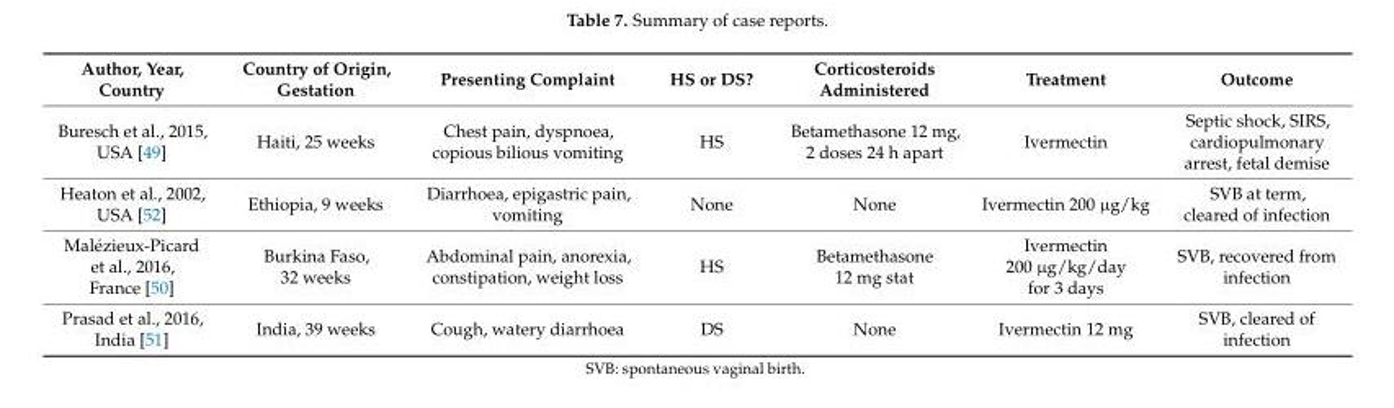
<table><thead><tr><td>Author, Year, Country</td><td>Country of Origin, Gestation</td><td>Presenting Complaint</td><td>HS or DS?</td><td>Corticosteroids Administered</td><td>Treatment</td><td>Outcome</td></tr></thead><tbody><tr><td>Buresch et al., 2015, USA [49]</td><td>Haiti, 25 weeks</td><td>Chest pain, dyspnoea, copious bilious vomiting</td><td>HS</td><td>Betamethasone 12 mg, 2 doses 24 h apart</td><td>Ivermectin</td><td>Septic shock, SIRS, cardiopulmonary arrest, fetal demise</td></tr><tr><td>Heaton et al., 2002, USA [52]</td><td>Ethiopia, 9 weeks</td><td>Diarrhoea, epigastric pain, vomiting</td><td>None</td><td>None</td><td>Ivermectin 200 µg/kg</td><td>SVB at term, cleared of infection</td></tr><tr><td>Malézieux-Picard et al., 2016, France [50]</td><td>Burkina Faso, 32 weeks</td><td>Abdominal pain, anorexia, constipation, weight loss</td><td>HS</td><td>Betamethasone 12 mg stat</td><td>Ivermectin 200 µg/kg/day for 3 days</td><td>SVB, recovered from infection</td></tr><tr><td>Prasad et al., 2016, India [51]</td><td>India, 39 weeks</td><td>Cough, watery diarrhoea</td><td>DS</td><td>None</td><td>Ivermectin 12 mg</td><td>SVB, cleared of infection</td></tr></tbody></table>